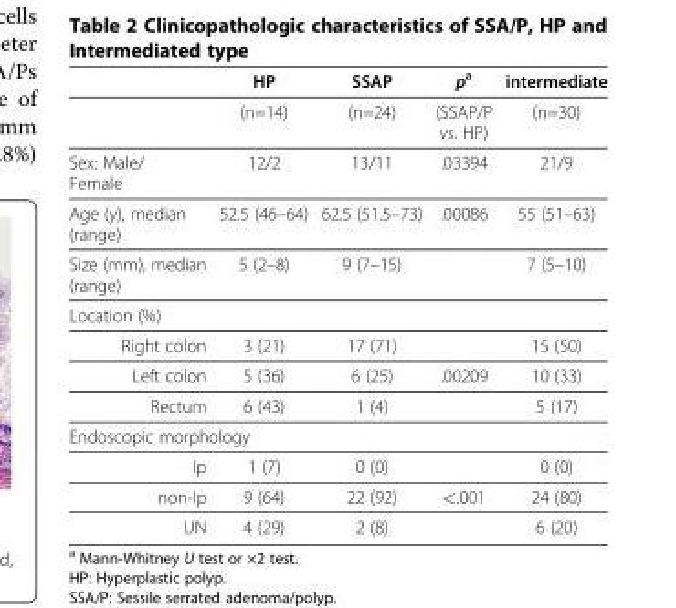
<table><thead><tr><td></td><td>HP</td><td>SSAP</td><td>p<sup>a</sup></td><td>intermediate</td></tr></thead><tbody><tr><td></td><td>(n=14)</td><td>(n=24)</td><td>(SSAP/P vs. HP)</td><td>(n=30)</td></tr><tr><td>Sex: Male/ Female</td><td>12/2</td><td>13/11</td><td>.03394</td><td>21/9</td></tr><tr><td>Age (y), median (range)</td><td>52.5 (46–64)</td><td>62.5 (51.5–73)</td><td>.00086</td><td>55 (51–63)</td></tr><tr><td>Size (mm), median (range)</td><td>5 (2–8)</td><td>9 (7–15)</td><td></td><td>7 (5–10)</td></tr><tr><td colspan="5">Location (%)</td></tr><tr><td>Right colon</td><td>3 (21)</td><td>17 (71)</td><td></td><td>15 (50)</td></tr><tr><td>Left colon</td><td>5 (36)</td><td>6 (25)</td><td>.00209</td><td>10 (33)</td></tr><tr><td>Rectum</td><td>6 (43)</td><td>1 (4)</td><td></td><td>5 (17)</td></tr><tr><td colspan="5">Endoscopic morphology</td></tr><tr><td>Ip</td><td>1 (7)</td><td>0 (0)</td><td></td><td>0 (0)</td></tr><tr><td>non-Ip</td><td>9 (64)</td><td>22 (92)</td><td>&lt;.001</td><td>24 (80)</td></tr><tr><td>UN</td><td>4 (29)</td><td>2 (8)</td><td></td><td>6 (20)</td></tr></tbody></table>